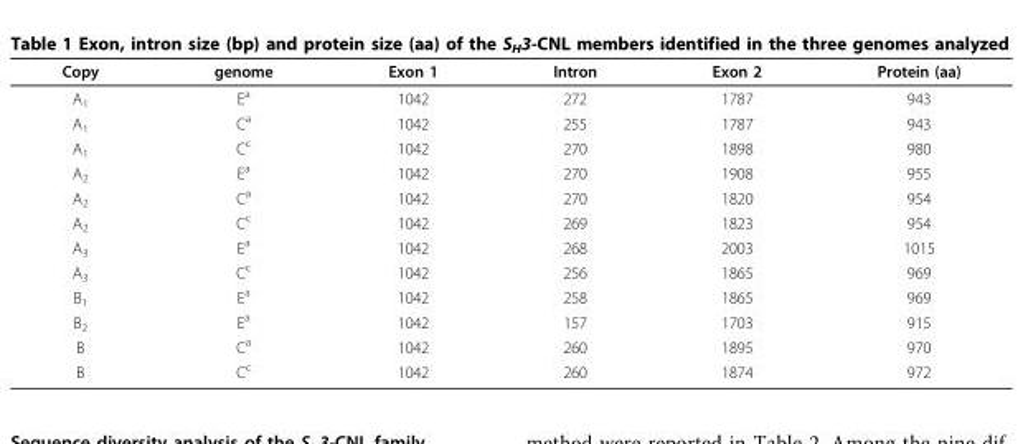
<table><thead><tr><td>Copy</td><td>genome</td><td>Exon 1</td><td>Intron</td><td>Exon 2</td><td>Protein (aa)</td></tr></thead><tbody><tr><td>A<sub>1</sub></td><td>E<sup>a</sup></td><td>1042</td><td>272</td><td>1787</td><td>943</td></tr><tr><td>A<sub>1</sub></td><td>C<sup>a</sup></td><td>1042</td><td>255</td><td>1787</td><td>943</td></tr><tr><td>A<sub>1</sub></td><td>C<sup>c</sup></td><td>1042</td><td>270</td><td>1898</td><td>980</td></tr><tr><td>A<sub>2</sub></td><td>E<sup>a</sup></td><td>1042</td><td>270</td><td>1908</td><td>955</td></tr><tr><td>A<sub>2</sub></td><td>C<sup>a</sup></td><td>1042</td><td>270</td><td>1820</td><td>954</td></tr><tr><td>A<sub>2</sub></td><td>C<sup>c</sup></td><td>1042</td><td>269</td><td>1823</td><td>954</td></tr><tr><td>A<sub>3</sub></td><td>E<sup>a</sup></td><td>1042</td><td>268</td><td>2003</td><td>1015</td></tr><tr><td>A<sub>3</sub></td><td>C<sup>c</sup></td><td>1042</td><td>256</td><td>1865</td><td>969</td></tr><tr><td>B<sub>1</sub></td><td>E<sup>a</sup></td><td>1042</td><td>258</td><td>1865</td><td>969</td></tr><tr><td>B<sub>2</sub></td><td>E<sup>a</sup></td><td>1042</td><td>157</td><td>1703</td><td>915</td></tr><tr><td>B</td><td>C<sup>a</sup></td><td>1042</td><td>260</td><td>1895</td><td>970</td></tr><tr><td>B</td><td>C<sup>c</sup></td><td>1042</td><td>260</td><td>1874</td><td>972</td></tr></tbody></table>